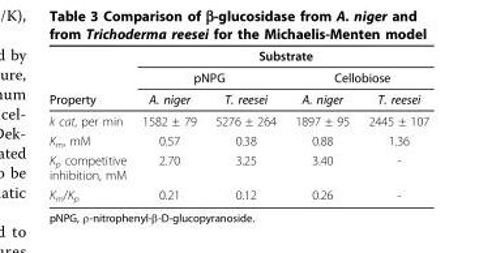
<table><thead><tr><td rowspan="3">Property</td><td colspan="4">Substrate</td></tr><tr><td colspan="2">pNPG</td><td colspan="2">Cellobiose</td></tr><tr><td>A. niger</td><td>T. reesei</td><td>A. niger</td><td>T. reesei</td></tr></thead><tbody><tr><td>k cat, per min</td><td>1582 ± 79</td><td>5276 ± 264</td><td>1897 ± 95</td><td>2445 ± 107</td></tr><tr><td>K<sub>m</sub>, mM</td><td>0.57</td><td>0.38</td><td>0.88</td><td>1.36</td></tr><tr><td>K<sub>p</sub> competitive inhibition, mM</td><td>2.70</td><td>3.25</td><td>3.40</td><td>-</td></tr><tr><td>K<sub>m</sub>/K<sub>p</sub></td><td>0.21</td><td>0.12</td><td>0.26</td><td>-</td></tr></tbody></table>